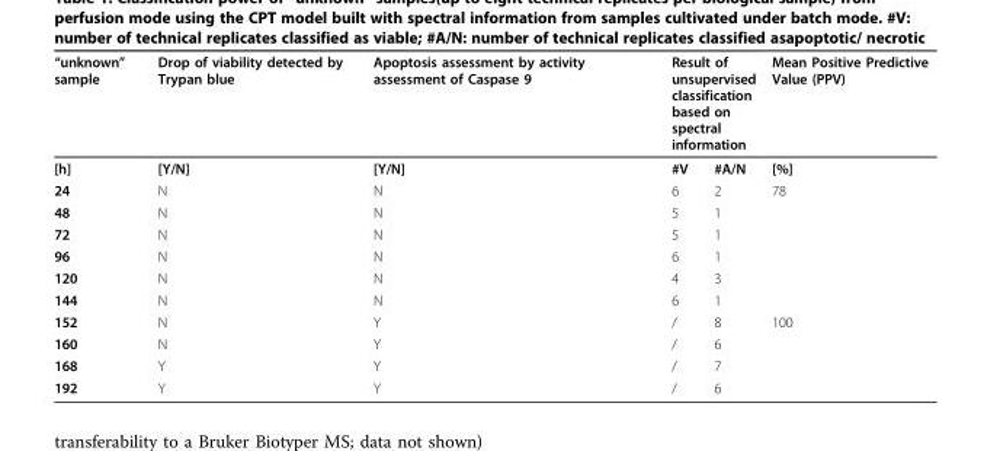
<table><thead><tr><td rowspan="2">“unknown” sample [h]</td><td rowspan="2">Drop of viability detected by Trypan blue [Y/N]</td><td rowspan="2">Apoptosis assessment by activity assessment of Caspase 9 [Y/N]</td><td colspan="2">Result of unsupervised classification based on spectral information</td><td rowspan="2">Mean Positive Predictive Value (PPV) [%]</td></tr><tr><td>#V</td><td>#A/N</td></tr></thead><tbody><tr><td>24</td><td>N</td><td>N</td><td>6</td><td>2</td><td>78</td></tr><tr><td>48</td><td>N</td><td>N</td><td>5</td><td>1</td><td></td></tr><tr><td>72</td><td>N</td><td>N</td><td>5</td><td>1</td><td></td></tr><tr><td>96</td><td>N</td><td>N</td><td>6</td><td>1</td><td></td></tr><tr><td>120</td><td>N</td><td>N</td><td>4</td><td>3</td><td></td></tr><tr><td>144</td><td>N</td><td>N</td><td>6</td><td>1</td><td></td></tr><tr><td>152</td><td>N</td><td>Y</td><td>/</td><td>8</td><td>100</td></tr><tr><td>160</td><td>N</td><td>Y</td><td>/</td><td>6</td><td></td></tr><tr><td>168</td><td>Y</td><td>Y</td><td>/</td><td>7</td><td></td></tr><tr><td>192</td><td>Y</td><td>Y</td><td>/</td><td>6</td><td></td></tr></tbody></table>